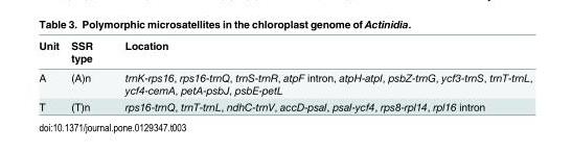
<table><thead><tr><td>Unit</td><td>SSR type</td><td>Location</td></tr></thead><tbody><tr><td>A</td><td>(A)n</td><td>trnK-rps16, rps16-trnQ, trnS-trnR, atpF intron, atpH-atpI, psbZ-trnG, ycf3-trnS, trnT-trnL, ycf4-cemA, petA-psbJ, psbE-petL</td></tr><tr><td>T</td><td>(T)n</td><td>rps16-trnQ, trnT-trnL, ndhC-trnV, accD-psaI, psaI-ycf4, rps8-rpl14, rpl16 intron</td></tr></tbody></table>